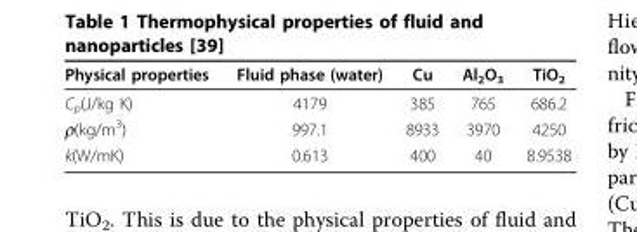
<table><thead><tr><td>Physical properties</td><td>Fluid phase (water)</td><td>Cu</td><td>Al<sub>2</sub>O<sub>3</sub></td><td>TiO<sub>2</sub></td></tr></thead><tbody><tr><td>C<sub>p</sub>(J/kg K)</td><td>4179</td><td>385</td><td>765</td><td>686.2</td></tr><tr><td>ρ(kg/m<sup>3</sup>)</td><td>997.1</td><td>8933</td><td>3970</td><td>4250</td></tr><tr><td>k(W/mK)</td><td>0.613</td><td>400</td><td>40</td><td>8.9538</td></tr></tbody></table>